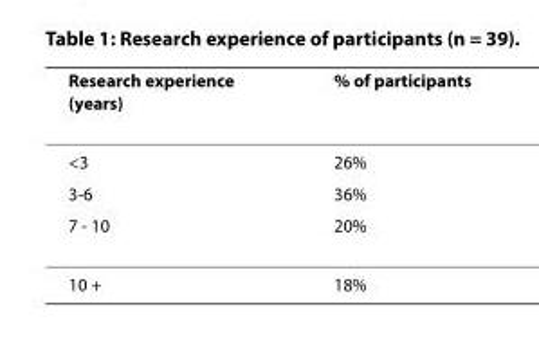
<table><thead><tr><td>Research experience (years)</td><td>% of participants</td></tr></thead><tbody><tr><td>&lt;3</td><td>26%</td></tr><tr><td>3-6</td><td>36%</td></tr><tr><td>7 - 10</td><td>20%</td></tr><tr><td>10 +</td><td>18%</td></tr></tbody></table>